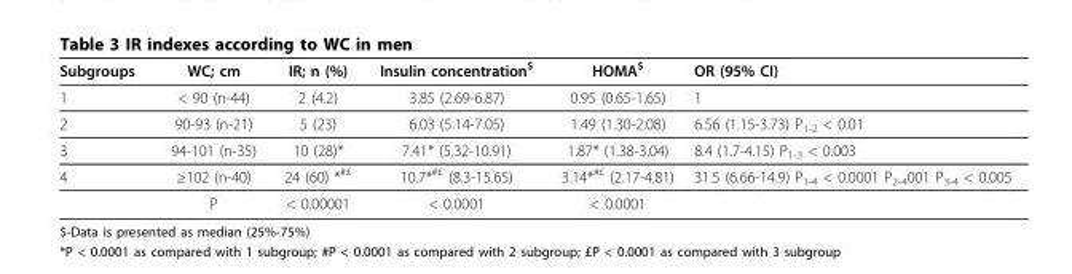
<table><thead><tr><td>Subgroups</td><td>WC; cm</td><td>IR; n (%)</td><td>Insulin concentration<sup>$</sup></td><td>HOMA<sup>$</sup></td><td>OR (95% CI)</td></tr></thead><tbody><tr><td>1</td><td>&lt; 90 (n-44)</td><td>2 (4.2)</td><td>3.85 (2.69-6.87)</td><td>0.95 (0.65-1.65)</td><td>1</td></tr><tr><td>2</td><td>90-93 (n-21)</td><td>5 (23)</td><td>6.03 (5.14-7.05)</td><td>1.49 (1.30-2.08)</td><td>6.56 (1.15-3.73) P<sub>1-2</sub> &lt; 0.01</td></tr><tr><td>3</td><td>94-101 (n-35)</td><td>10 (28)*</td><td>7.41* (5.32-10.91)</td><td>1.87* (1.38-3.04)</td><td>8.4 (1.7-4.15) P<sub>1-3</sub> &lt; 0.003</td></tr><tr><td rowspan="2">4</td><td>≥102 (n-40)</td><td>24 (60) *<sup>#£</sup></td><td>10.7*<sup>#£</sup> (8.3-15.65)</td><td>3.14*<sup>#£</sup> (2.17-4.81)</td><td>31.5 (6.66-14.9) P<sub>1-4</sub> &lt; 0.0001 P<sub>2-4</sub>001 P<sub>3-4</sub> &lt; 0.005</td></tr><tr><td>P</td><td>&lt; 0.00001</td><td>&lt; 0.0001</td><td>&lt; 0.0001</td><td></td></tr></tbody></table>